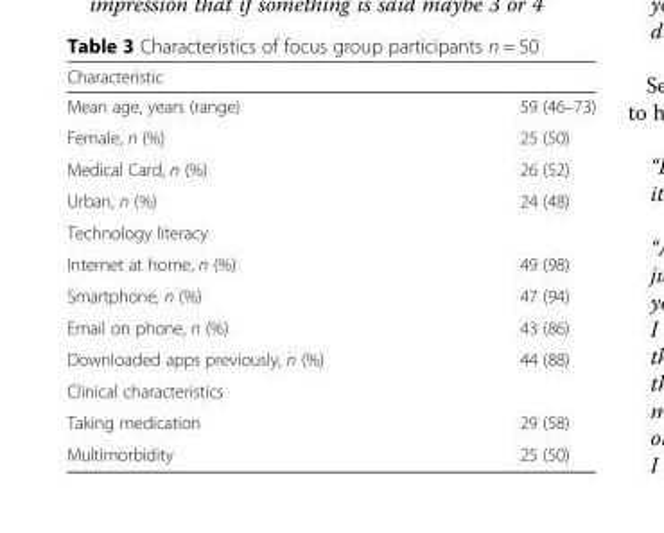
<table><thead><tr><td>Characteristic</td><td></td></tr></thead><tbody><tr><td>Mean age, years (range)</td><td>59 (46–73)</td></tr><tr><td>Female, n (%)</td><td>25 (50)</td></tr><tr><td>Medical Card, n (%)</td><td>26 (52)</td></tr><tr><td>Urban, n (%)</td><td>24 (48)</td></tr><tr><td colspan="2">Technology literacy</td></tr><tr><td>Internet at home, n (%)</td><td>49 (98)</td></tr><tr><td>Smartphone, n (%)</td><td>47 (94)</td></tr><tr><td>Email on phone, n (%)</td><td>43 (86)</td></tr><tr><td>Downloaded apps previously, n (%)</td><td>44 (88)</td></tr><tr><td colspan="2">Clinical characteristics</td></tr><tr><td>Taking medication</td><td>29 (58)</td></tr><tr><td>Multimorbidity</td><td>25 (50)</td></tr></tbody></table>